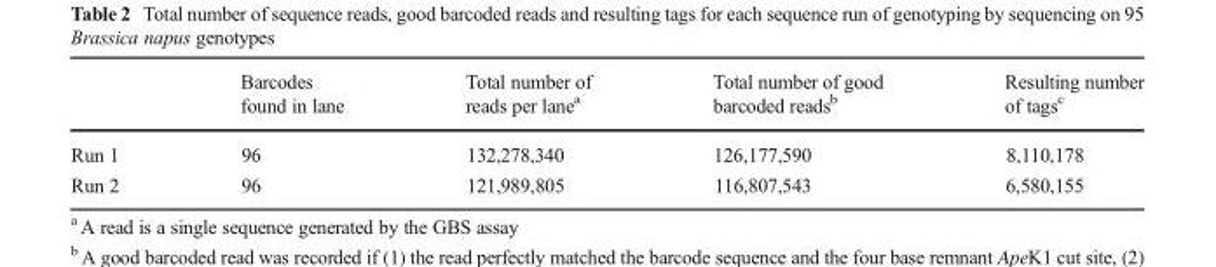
<table><thead><tr><td></td><td>Barcodes found in lane</td><td>Total number of reads per lane<sup>a</sup></td><td>Total number of good barcoded reads<sup>b</sup></td><td>Resulting number of tags<sup>c</sup></td></tr></thead><tbody><tr><td>Run 1</td><td>96</td><td>132,278,340</td><td>126,177,590</td><td>8,110,178</td></tr><tr><td>Run 2</td><td>96</td><td>121,989,805</td><td>116,807,543</td><td>6,580,155</td></tr></tbody></table>